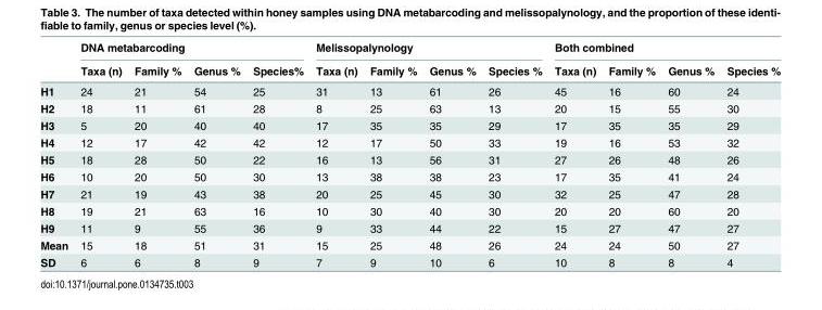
<table><thead><tr><td rowspan="2"></td><td colspan="4">DNA metabarcoding</td><td colspan="4">Melissopalynology</td><td colspan="4">Both combined</td></tr><tr><td>Taxa (n)</td><td>Family %</td><td>Genus %</td><td>Species%</td><td>Taxa (n)</td><td>Family %</td><td>Genus %</td><td>Species %</td><td>Taxa (n)</td><td>Family %</td><td>Genus %</td><td>Species %</td></tr></thead><tbody><tr><td>H1</td><td>24</td><td>21</td><td>54</td><td>25</td><td>31</td><td>13</td><td>61</td><td>26</td><td>45</td><td>16</td><td>60</td><td>24</td></tr><tr><td>H2</td><td>18</td><td>11</td><td>61</td><td>28</td><td>8</td><td>25</td><td>63</td><td>13</td><td>20</td><td>15</td><td>55</td><td>30</td></tr><tr><td>H3</td><td>5</td><td>20</td><td>40</td><td>40</td><td>17</td><td>35</td><td>35</td><td>29</td><td>17</td><td>35</td><td>35</td><td>29</td></tr><tr><td>H4</td><td>12</td><td>17</td><td>42</td><td>42</td><td>12</td><td>17</td><td>50</td><td>33</td><td>19</td><td>16</td><td>53</td><td>32</td></tr><tr><td>H5</td><td>18</td><td>28</td><td>50</td><td>22</td><td>16</td><td>13</td><td>56</td><td>31</td><td>27</td><td>26</td><td>48</td><td>26</td></tr><tr><td>H6</td><td>10</td><td>20</td><td>50</td><td>30</td><td>13</td><td>38</td><td>38</td><td>23</td><td>17</td><td>35</td><td>41</td><td>24</td></tr><tr><td>H7</td><td>21</td><td>19</td><td>43</td><td>38</td><td>20</td><td>25</td><td>45</td><td>30</td><td>32</td><td>25</td><td>47</td><td>28</td></tr><tr><td>H8</td><td>19</td><td>21</td><td>63</td><td>16</td><td>10</td><td>30</td><td>40</td><td>30</td><td>20</td><td>20</td><td>60</td><td>20</td></tr><tr><td>H9</td><td>11</td><td>9</td><td>55</td><td>36</td><td>9</td><td>33</td><td>44</td><td>22</td><td>15</td><td>27</td><td>47</td><td>27</td></tr><tr><td>Mean</td><td>15</td><td>18</td><td>51</td><td>31</td><td>15</td><td>25</td><td>48</td><td>26</td><td>24</td><td>24</td><td>50</td><td>27</td></tr><tr><td>SD</td><td>6</td><td>6</td><td>8</td><td>9</td><td>7</td><td>9</td><td>10</td><td>6</td><td>10</td><td>8</td><td>8</td><td>4</td></tr></tbody></table>